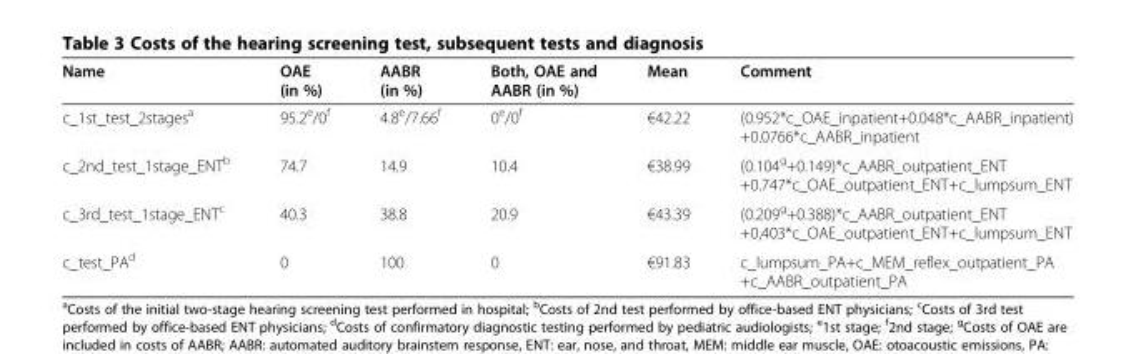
<table><thead><tr><td>Name</td><td>OAE (in %)</td><td>AABR (in %)</td><td>Both, OAE and AABR (in %)</td><td>Mean</td><td>Comment</td></tr></thead><tbody><tr><td>c_1st_test_2stages<sup>a</sup></td><td>95.2<sup>e</sup>/0<sup>f</sup></td><td>4.8<sup>e</sup>/7.66<sup>f</sup></td><td>0<sup>e</sup>/0<sup>f</sup></td><td>€42.22</td><td>(0.952*c_OAE_inpatient+0.048*c_AABR_inpatient) +0.0766*c_AABR_inpatient</td></tr><tr><td>c_2nd_test_1stage_ENT<sup>b</sup></td><td>74.7</td><td>14.9</td><td>10.4</td><td>€38.99</td><td>(0.104<sup>g</sup>+0.149)*c_AABR_outpatient_ENT +0.747*c_OAE_outpatient_ENT+c_lumpsum_ENT</td></tr><tr><td>c_3rd_test_1stage_ENT<sup>c</sup></td><td>40.3</td><td>38.8</td><td>20.9</td><td>€43.39</td><td>(0.209<sup>g</sup>+0.388)*c_AABR_outpatient_ENT +0,403*c_OAE_outpatient_ENT+c_lumpsum_ENT</td></tr><tr><td>c_test_PA<sup>d</sup></td><td>0</td><td>100</td><td>0</td><td>€91.83</td><td>c_lumpsum_PA+c_MEM_reflex_outpatient_PA +c_AABR_outpatient_PA</td></tr></tbody></table>